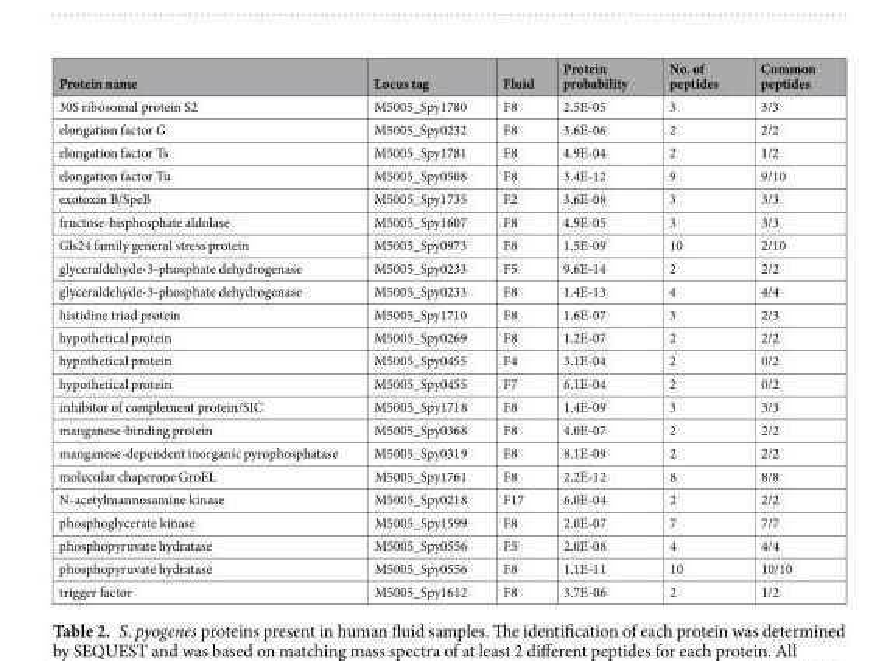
<table><thead><tr><td>Protein name</td><td>Locus tag</td><td>Fluid</td><td>Protein probability</td><td>No. of peptides</td><td>Common peptides</td></tr></thead><tbody><tr><td>30S ribosomal protein S2</td><td>M5005_Spy1780</td><td>F8</td><td>2.5E-05</td><td>3</td><td>3/3</td></tr><tr><td>elongation factor G</td><td>M5005_Spy0232</td><td>F8</td><td>3.6E-06</td><td>2</td><td>2/2</td></tr><tr><td>elongation factor Ts</td><td>M5005_Spy1781</td><td>F8</td><td>4.9E-04</td><td>2</td><td>1/2</td></tr><tr><td>elongation factor Tu</td><td>M5005_Spy0508</td><td>F8</td><td>3.4E-12</td><td>9</td><td>9/10</td></tr><tr><td>exotoxin B/SpeB</td><td>M5005_Spy1735</td><td>F2</td><td>3.6E-08</td><td>3</td><td>3/3</td></tr><tr><td>fructose-bisphosphate aldolase</td><td>M5005_Spy1607</td><td>F8</td><td>4.9E-05</td><td>3</td><td>3/3</td></tr><tr><td>Gls24 family general stress protein</td><td>M5005_Spy0973</td><td>F8</td><td>1.5E-09</td><td>10</td><td>2/10</td></tr><tr><td>glyceraldehyde-3-phosphate dehydrogenase</td><td>M5005_Spy0233</td><td>F5</td><td>9.6E-14</td><td>2</td><td>2/2</td></tr><tr><td>glyceraldehyde-3-phosphate dehydrogenase</td><td>M5005_Spy0233</td><td>F8</td><td>1.4E-13</td><td>4</td><td>4/4</td></tr><tr><td>histidine triad protein</td><td>M5005_Spy1710</td><td>F8</td><td>1.6E-07</td><td>3</td><td>2/3</td></tr><tr><td>hypothetical protein</td><td>M5005_Spy0269</td><td>F8</td><td>1.2E-07</td><td>2</td><td>2/2</td></tr><tr><td>hypothetical protein</td><td>M5005_Spy0455</td><td>F4</td><td>3.1E-04</td><td>2</td><td>0/2</td></tr><tr><td>hypothetical protein</td><td>M5005_Spy0455</td><td>F7</td><td>6.1E-04</td><td>2</td><td>0/2</td></tr><tr><td>inhibitor of complement protein/SIC</td><td>M5005_Spy1718</td><td>F8</td><td>1.4E-09</td><td>3</td><td>3/3</td></tr><tr><td>manganese-binding protein</td><td>M5005_Spy0368</td><td>F8</td><td>4.0E-07</td><td>2</td><td>2/2</td></tr><tr><td>manganese-dependent inorganic pyrophosphatase</td><td>M5005_Spy0319</td><td>F8</td><td>8.1E-09</td><td>2</td><td>2/2</td></tr><tr><td>molecular chaperone GroEL</td><td>M5005_Spy1761</td><td>F8</td><td>2.2E-12</td><td>8</td><td>8/8</td></tr><tr><td>N-acetylmannosamine kinase</td><td>M5005_Spy0218</td><td>F17</td><td>6.0E-04</td><td>2</td><td>2/2</td></tr><tr><td>phosphoglycerate kinase</td><td>M5005_Spy1599</td><td>F8</td><td>2.0E-07</td><td>7</td><td>7/7</td></tr><tr><td>phosphopyruvate hydratase</td><td>M5005_Spy0556</td><td>F5</td><td>2.0E-08</td><td>4</td><td>4/4</td></tr><tr><td>phosphopyruvate hydratase</td><td>M5005_Spy0556</td><td>F8</td><td>1.1E-11</td><td>10</td><td>10/10</td></tr><tr><td>trigger factor</td><td>M5005_Spy1612</td><td>F8</td><td>3.7E-06</td><td>2</td><td>1/2</td></tr></tbody></table>